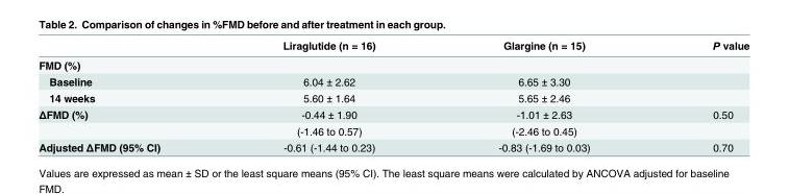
<table><thead><tr><td></td><td>Liraglutide (n = 16)</td><td>Glargine (n = 15)</td><td>P value</td></tr></thead><tbody><tr><td colspan="4">FMD (%)</td></tr><tr><td>Baseline</td><td>6.04 ± 2.62</td><td>6.65 ± 3.30</td><td></td></tr><tr><td>14 weeks</td><td>5.60 ± 1.64</td><td>5.65 ± 2.46</td><td></td></tr><tr><td rowspan="2">ΔFMD (%)</td><td>-0.44 ± 1.90</td><td>-1.01 ± 2.63</td><td>0.50</td></tr><tr><td>(-1.46 to 0.57)</td><td>(-2.46 to 0.45)</td><td></td></tr><tr><td>Adjusted ΔFMD (95% CI)</td><td>-0.61 (-1.44 to 0.23)</td><td>-0.83 (-1.69 to 0.03)</td><td>0.70</td></tr></tbody></table>